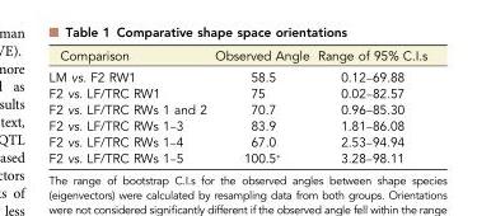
<table><thead><tr><td>Comparison</td><td>Observed Angle</td><td>Range of 95% C.I.s</td></tr></thead><tbody><tr><td>LM vs. F2 RW1</td><td>58.5</td><td>0.12–69.88</td></tr><tr><td>F2 vs. LF/TRC RW1</td><td>75</td><td>0.02–82.57</td></tr><tr><td>F2 vs. LF/TRC RWs 1 and 2</td><td>70.7</td><td>0.96–85.30</td></tr><tr><td>F2 vs. LF/TRC RWs 1–3</td><td>83.9</td><td>1.81–86.08</td></tr><tr><td>F2 vs. LF/TRC RWs 1–4</td><td>67.0</td><td>2.53–94.94</td></tr><tr><td>F2 vs. LF/TRC RWs 1–5</td><td>100.5*</td><td>3.28–98.11</td></tr></tbody></table>